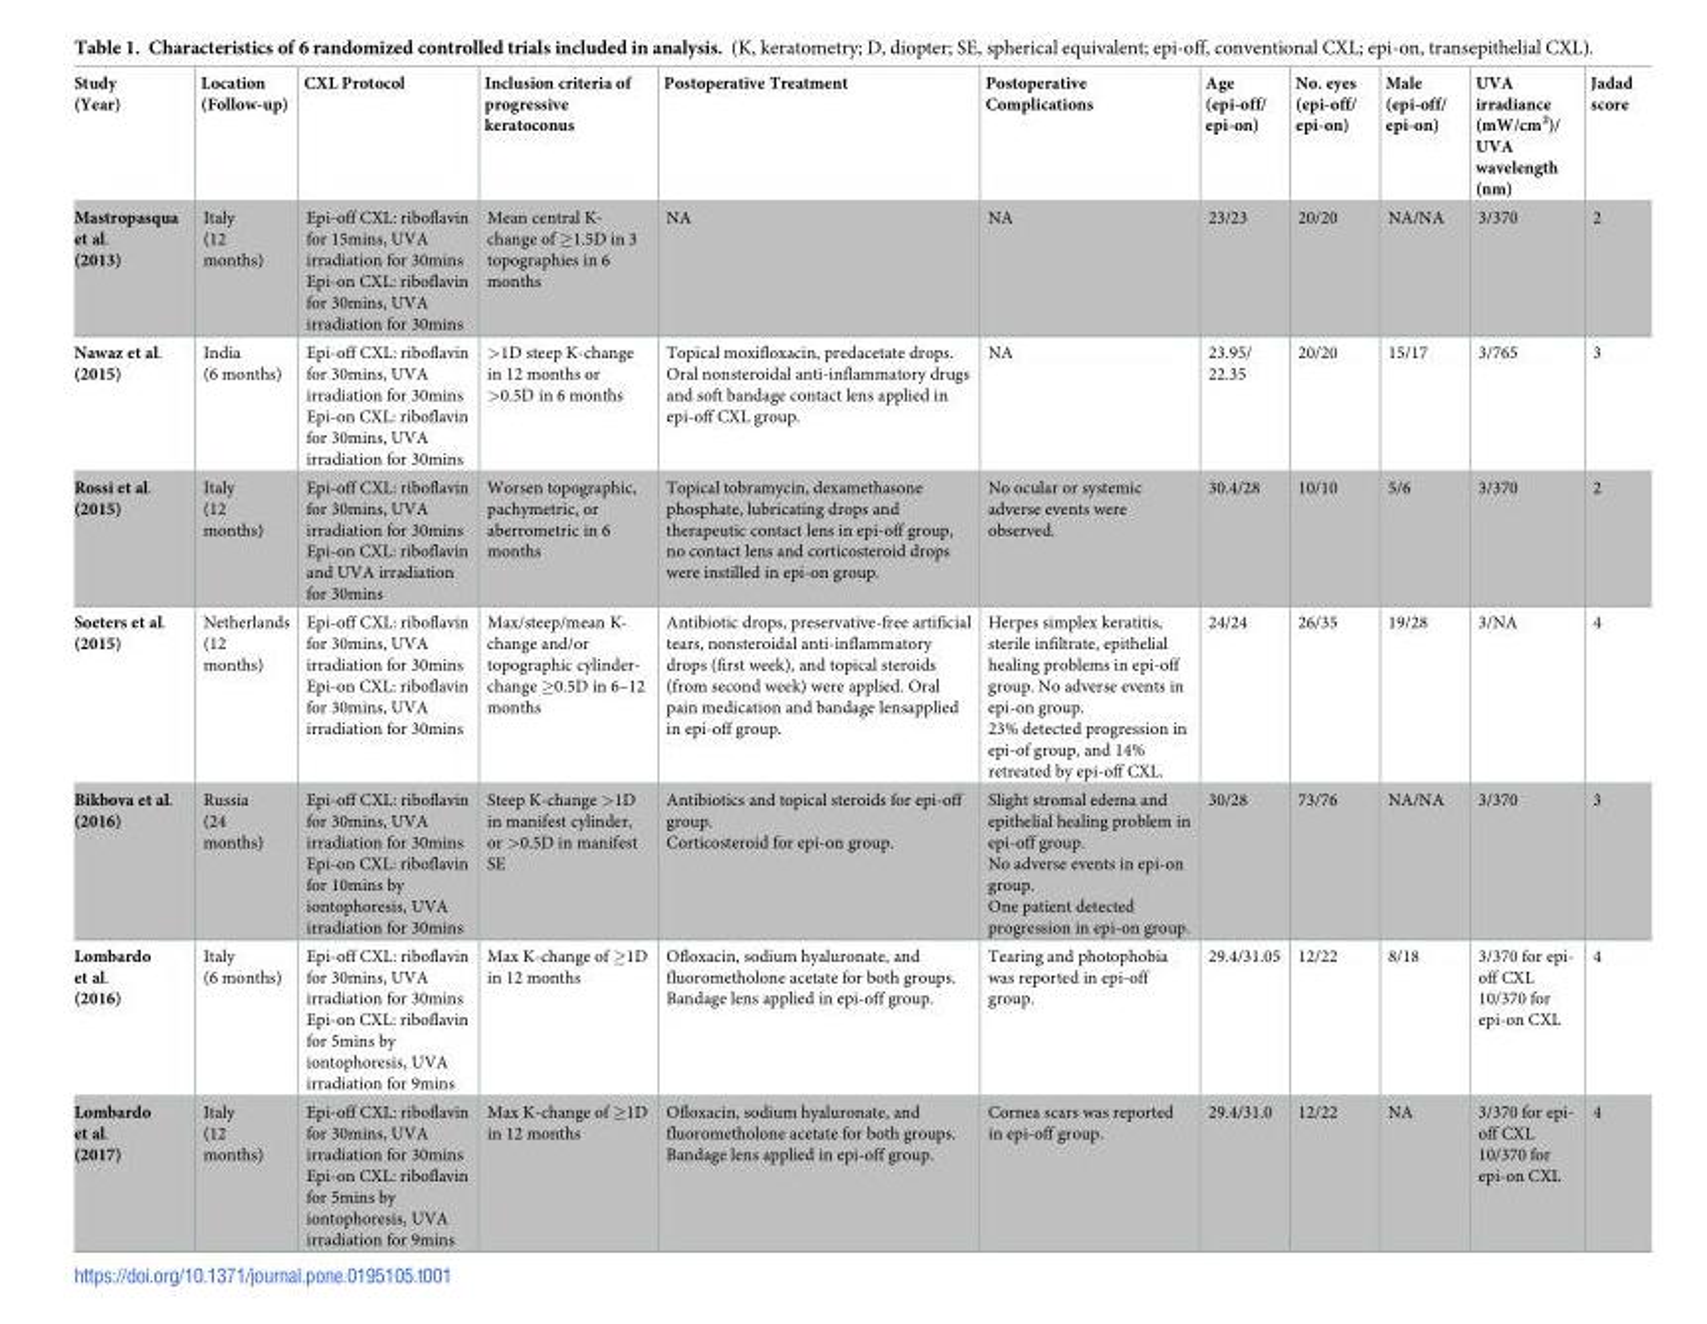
<table><thead><tr><td>Study (Year)</td><td>Location (Follow-up)</td><td>CXL Protocol</td><td>Inclusion criteria of progressive keratoconus</td><td>Postoperative Treatment</td><td>Postoperative Complications</td><td>Age (epi-off/ epi-on)</td><td>No. eyes (epi-off/ epi-on)</td><td>Male (epi-off/ epi-on)</td><td>UVA irradiance (mW/cm<sup>2</sup>)/ UVA wavelength (nm)</td><td>Jadad score</td></tr></thead><tbody><tr><td>Mastropasqua et al. (2013)</td><td>Italy (12 months)</td><td>Epi-off CXL: riboflavin for 15mins, UVA irradiation for 30mins Epi-on CXL: riboflavin for 30mins, UVA irradiation for 30mins</td><td>Mean central K- change of ≥1.5D in 3 topographies in 6 months</td><td>NA</td><td>NA</td><td>23/23</td><td>20/20</td><td>NA/NA</td><td>3/370</td><td>2</td></tr><tr><td>Nawaz et al. (2015)</td><td>India (6 months)</td><td>Epi-off CXL: riboflavin for 30mins, UVA irradiation for 30mins Epi-on CXL: riboflavin for 30mins, UVA irradiation for 30mins</td><td>&gt;1D steep K-change in 12 months or &gt;0.5D in 6 months</td><td>Topical moxifloxacin, predacetate drops. Oral nonsteroidal anti-inflammatory drugs and soft bandage contact lens applied in epi-off CXL group.</td><td>NA</td><td>23.95/ 22.35</td><td>20/20</td><td>15/17</td><td>3/765</td><td>3</td></tr><tr><td>Rossi et al. (2015)</td><td>Italy (12 months)</td><td>Epi-off CXL: riboflavin for 30mins, UVA irradiation for 30mins Epi-on CXL: riboflavin and UVA irradiation for 30mins</td><td>Worsen topographic, pachymetric, or aberrometric in 6 months</td><td>Topical tobramycin, dexamethasone phosphate, lubricating drops and therapeutic contact lens in epi-off group, no contact lens and corticosteroid drops were instilled in epi-on group.</td><td>No ocular or systemic adverse events were observed.</td><td>30.4/28</td><td>10/10</td><td>5/6</td><td>3/370</td><td>2</td></tr><tr><td>Soeters et al. (2015)</td><td>Netherlands (12 months)</td><td>Epi-off CXL: riboflavin for 30mins, UVA irradiation for 30mins Epi-on CXL: riboflavin for 30mins, UVA irradiation for 30mins</td><td>Max/steep/mean K- change and/or topographic cylinder- change ≥0.5D in 6–12 months</td><td>Antibiotic drops, preservative-free artificial tears, nonsteroidal anti-inflammatory drops (first week), and topical steroids (from second week) were applied. Oral pain medication and bandage lensapplied in epi-off group.</td><td>Herpes simplex keratitis, sterile infiltrate, epithelial healing problems in epi-off group. No adverse events in epi-on group. 23% detected progression in epi-of group, and 14% retreated by epi-off CXL.</td><td>24/24</td><td>26/35</td><td>19/28</td><td>3/NA</td><td>4</td></tr><tr><td>Bikbova et al. (2016)</td><td>Russia (24 months)</td><td>Epi-off CXL: riboflavin for 30mins, UVA irradiation for 30mins Epi-on CXL: riboflavin for 10mins by iontophoresis, UVA irradiation for 30mins</td><td>Steep K-change &gt;1D in manifest cylinder, or &gt;0.5D in manifest SE</td><td>Antibiotics and topical steroids for epi-off group. Corticosteroid for epi-on group.</td><td>Slight stromal edema and epithelial healing problem in epi-off group. No adverse events in epi-on group. One patient detected progression in epi-on group.</td><td>30/28</td><td>73/76</td><td>NA/NA</td><td>3/370</td><td>3</td></tr><tr><td>Lombardo et al. (2016)</td><td>Italy (6 months)</td><td>Epi-off CXL: riboflavin for 30mins, UVA irradiation for 30mins Epi-on CXL: riboflavin for 5mins by iontophoresis, UVA irradiation for 9mins</td><td>Max K-change of ≥1D in 12 months</td><td>Ofloxacin, sodium hyaluronate, and fluorometholone acetate for both groups. Bandage lens applied in epi-off group.</td><td>Tearing and photophobia was reported in epi-off group.</td><td>29.4/31.05</td><td>12/22</td><td>8/18</td><td>3/370 for epi- off CXL 10/370 for epi-on CXL</td><td>4</td></tr><tr><td>Lombardo et al. (2017)</td><td>Italy (12 months)</td><td>Epi-off CXL: riboflavin for 30mins, UVA irradiation for 30mins Epi-on CXL: riboflavin for 5mins by iontophoresis, UVA irradiation for 9mins</td><td>Max K-change of ≥1D in 12 months</td><td>Ofloxacin, sodium hyaluronate, and fluorometholone acetate for both groups. Bandage lens applied in epi-off group.</td><td>Cornea scars was reported in epi-off group.</td><td>29.4/31.0</td><td>12/22</td><td>NA</td><td>3/370 for epi- off CXL 10/370 for epi-on CXL</td><td>4</td></tr></tbody></table>